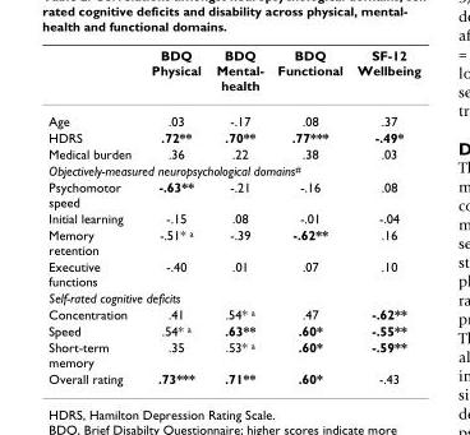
<table><thead><tr><td></td><td>BDQ Physical</td><td>BDQ Mental- health</td><td>BDQ Functional</td><td>SF-12 Wellbeing</td></tr></thead><tbody><tr><td>Age</td><td>.03</td><td>-.17</td><td>.08</td><td>.37</td></tr><tr><td>HDRS</td><td>.72**</td><td>.70**</td><td>.77***</td><td>-.49*</td></tr><tr><td>Medical burden</td><td>.36</td><td>.22</td><td>.38</td><td>.03</td></tr><tr><td colspan="5">Objectively-measured neuropsychological domains<sup>#</sup></td></tr><tr><td>Psychomotor speed</td><td>-.63**</td><td>-.21</td><td>-.16</td><td>.08</td></tr><tr><td>Initial learning</td><td>-.15</td><td>.08</td><td>-.01</td><td>-.04</td></tr><tr><td>Memory retention</td><td>-.51* <sup>a</sup></td><td>-.39</td><td>-.62**</td><td>.16</td></tr><tr><td>Executive functions</td><td>-.40</td><td>.01</td><td>.07</td><td>.10</td></tr><tr><td colspan="5">Self-rated cognitive deficits</td></tr><tr><td>Concentration</td><td>.41</td><td>.54* <sup>a</sup></td><td>.47</td><td>-.62**</td></tr><tr><td>Speed</td><td>.54* <sup>a</sup></td><td>.63**</td><td>.60*</td><td>-.55**</td></tr><tr><td>Short-term memory</td><td>.35</td><td>.53* <sup>a</sup></td><td>.60*</td><td>-.59**</td></tr><tr><td>Overall rating</td><td>.73***</td><td>.71**</td><td>.60*</td><td>-.43</td></tr></tbody></table>